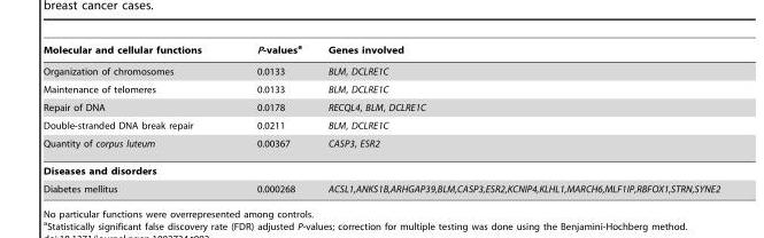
<table><thead><tr><td>Molecular and cellular functions</td><td>P-values<sup>a</sup></td><td>Genes involved</td></tr></thead><tbody><tr><td>Organization of chromosomes</td><td>0.0133</td><td>BLM, DCLRE1C</td></tr><tr><td>Maintenance of telomeres</td><td>0.0133</td><td>BLM, DCLRE1C</td></tr><tr><td>Repair of DNA</td><td>0.0178</td><td>RECQL4, BLM, DCLRE1C</td></tr><tr><td>Double-stranded DNA break repair</td><td>0.0211</td><td>BLM, DCLRE1C</td></tr><tr><td>Quantity of corpus luteum</td><td>0.00367</td><td>CASP3, ESR2</td></tr><tr><td colspan="3">Diseases and disorders</td></tr><tr><td>Diabetes mellitus</td><td>0.000268</td><td>ACSL1,ANKS1B,ARHGAP39,BLM,CASP3,ESR2,KCNIP4,KLHL1,MARCH6,MLF1IP,RBFOX1,STRN,SYNE2</td></tr></tbody></table>